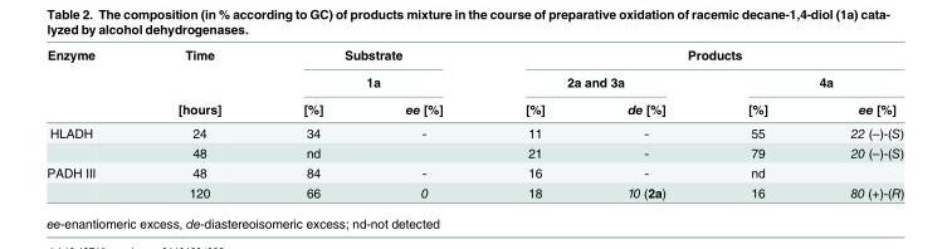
<table><thead><tr><td rowspan="3">Enzyme</td><td rowspan="3">Time [hours]</td><td rowspan="2" colspan="2">Substrate 1a</td><td colspan="4">Products</td></tr><tr><td colspan="2">2a and 3a</td><td colspan="2">4a</td></tr><tr><td>[%]</td><td>ee [%]</td><td>[%]</td><td>de [%]</td><td>[%]</td><td>ee [%]</td></tr></thead><tbody><tr><td rowspan="2">HLADH</td><td>24</td><td>34</td><td>-</td><td>11</td><td>-</td><td>55</td><td>22 (–)-(S)</td></tr><tr><td>48</td><td>nd</td><td></td><td>21</td><td>-</td><td>79</td><td>20 (–)-(S)</td></tr><tr><td rowspan="2">PADH III</td><td>48</td><td>84</td><td>-</td><td>16</td><td>-</td><td>nd</td><td></td></tr><tr><td>120</td><td>66</td><td>0</td><td>18</td><td>10 (2a)</td><td>16</td><td>80 (+)-(R)</td></tr></tbody></table>